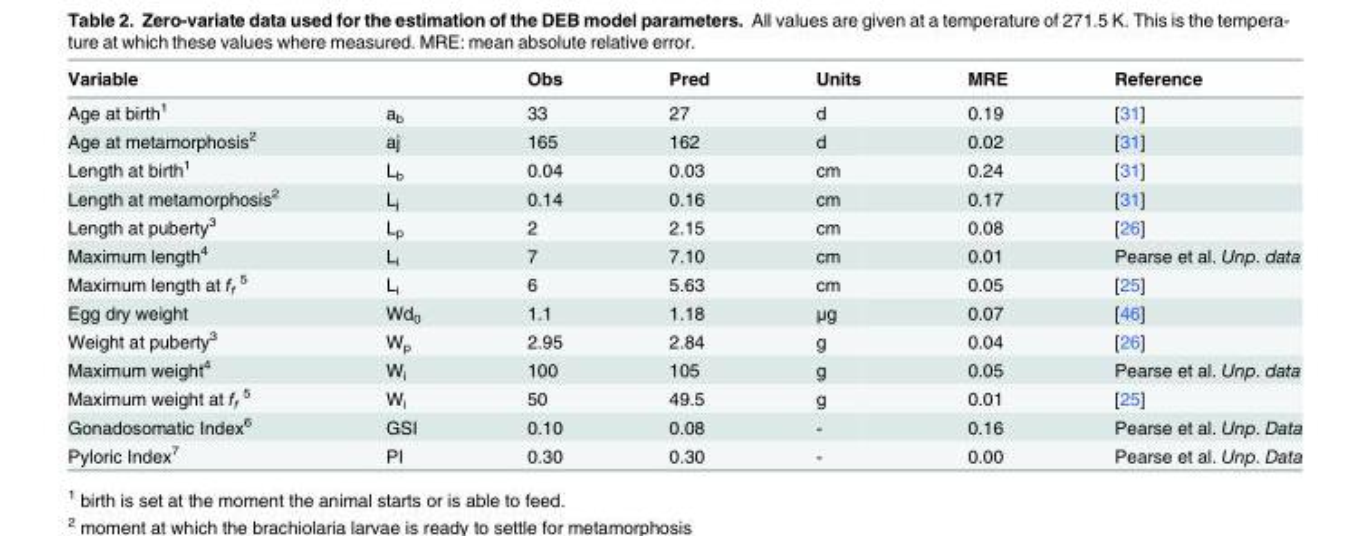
<table><thead><tr><td>Variable</td><td></td><td>Obs</td><td>Pred</td><td>Units</td><td>MRE</td><td>Reference</td></tr></thead><tbody><tr><td>Age at birth<sup>1</sup></td><td>a<sub>b</sub></td><td>33</td><td>27</td><td>d</td><td>0.19</td><td>[31]</td></tr><tr><td>Age at metamorphosis<sup>2</sup></td><td>aj</td><td>165</td><td>162</td><td>d</td><td>0.02</td><td>[31]</td></tr><tr><td>Length at birth<sup>1</sup></td><td>L<sub>b</sub></td><td>0.04</td><td>0.03</td><td>cm</td><td>0.24</td><td>[31]</td></tr><tr><td>Length at metamorphosis<sup>2</sup></td><td>L<sub>j</sub></td><td>0.14</td><td>0.16</td><td>cm</td><td>0.17</td><td>[31]</td></tr><tr><td>Length at puberty<sup>3</sup></td><td>L<sub>p</sub></td><td>2</td><td>2.15</td><td>cm</td><td>0.08</td><td>[26]</td></tr><tr><td>Maximum length<sup>4</sup></td><td>L<sub>i</sub></td><td>7</td><td>7.10</td><td>cm</td><td>0.01</td><td>Pearse et al. Unp. data</td></tr><tr><td>Maximum length at f<sub>f</sub> <sup>5</sup></td><td>L<sub>i</sub></td><td>6</td><td>5.63</td><td>cm</td><td>0.05</td><td>[25]</td></tr><tr><td>Egg dry weight</td><td>Wd<sub>0</sub></td><td>1.1</td><td>1.18</td><td>μg</td><td>0.07</td><td>[46]</td></tr><tr><td>Weight at puberty<sup>3</sup></td><td>W<sub>p</sub></td><td>2.95</td><td>2.84</td><td>g</td><td>0.04</td><td>[26]</td></tr><tr><td>Maximum weight<sup>4</sup></td><td>W<sub>i</sub></td><td>100</td><td>105</td><td>g</td><td>0.05</td><td>Pearse et al. Unp. data</td></tr><tr><td>Maximum weight at f<sub>f</sub> <sup>5</sup></td><td>W<sub>i</sub></td><td>50</td><td>49.5</td><td>g</td><td>0.01</td><td>[25]</td></tr><tr><td>Gonadosomatic Index<sup>6</sup></td><td>GSI</td><td>0.10</td><td>0.08</td><td>-</td><td>0.16</td><td>Pearse et al. Unp. Data</td></tr><tr><td>Pyloric Index<sup>7</sup></td><td>PI</td><td>0.30</td><td>0.30</td><td>-</td><td>0.00</td><td>Pearse et al. Unp. Data</td></tr></tbody></table>